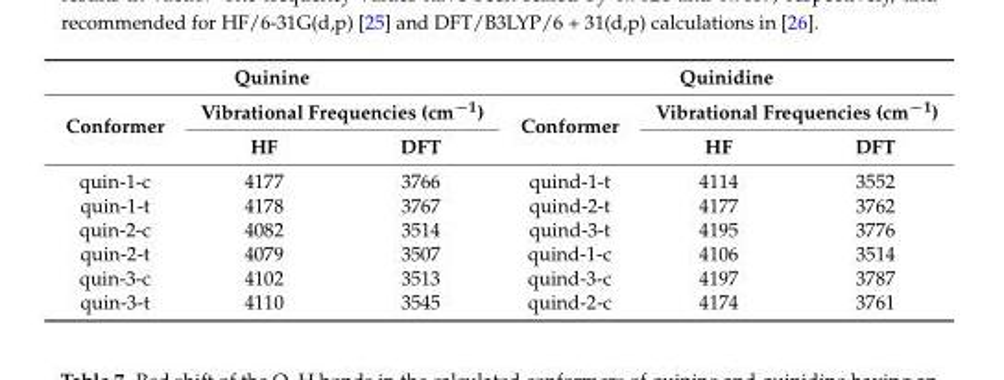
<table><thead><tr><td colspan="3">Quinine</td><td colspan="3">Quinidine</td></tr><tr><td rowspan="2">Conformer</td><td colspan="2">Vibrational Frequencies (cm<sup>−1</sup>)</td><td rowspan="2">Conformer</td><td colspan="2">Vibrational Frequencies (cm<sup>−1</sup>)</td></tr><tr><td>HF</td><td>DFT</td><td>HF</td><td>DFT</td></tr></thead><tbody><tr><td>quin-1-c</td><td>4177</td><td>3766</td><td>quind-1-t</td><td>4114</td><td>3552</td></tr><tr><td>quin-1-t</td><td>4178</td><td>3767</td><td>quind-2-t</td><td>4177</td><td>3762</td></tr><tr><td>quin-2-c</td><td>4082</td><td>3514</td><td>quind-3-t</td><td>4195</td><td>3776</td></tr><tr><td>quin-2-t</td><td>4079</td><td>3507</td><td>quind-1-c</td><td>4106</td><td>3514</td></tr><tr><td>quin-3-c</td><td>4102</td><td>3513</td><td>quind-3-c</td><td>4197</td><td>3787</td></tr><tr><td>quin-3-t</td><td>4110</td><td>3545</td><td>quind-2-c</td><td>4174</td><td>3761</td></tr></tbody></table>